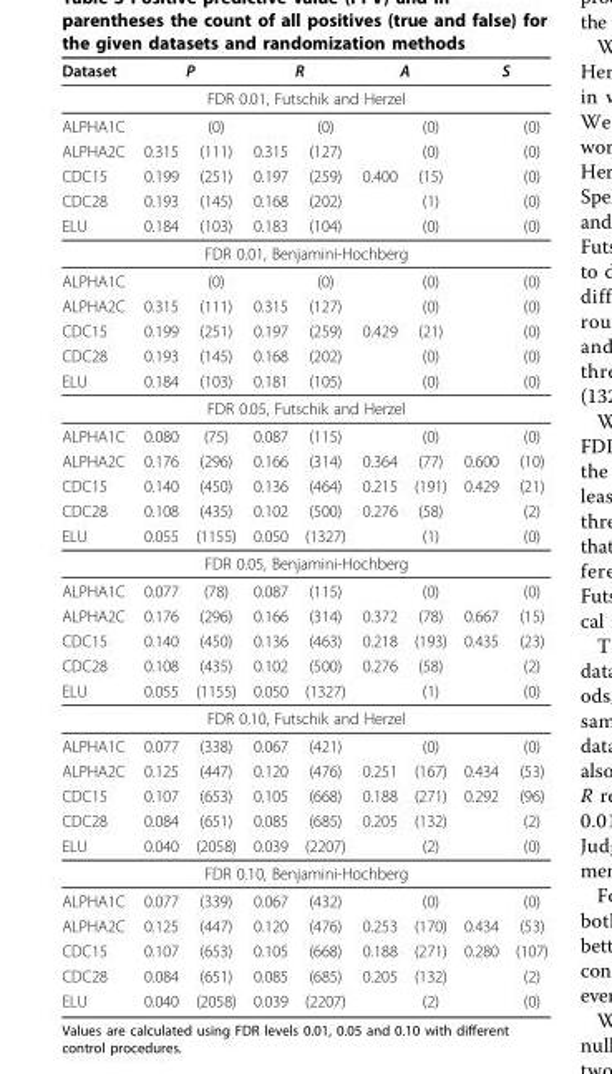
<table><thead><tr><td>Dataset</td><td colspan="2">P</td><td colspan="2">R</td><td colspan="2">A</td><td colspan="2">S</td></tr><tr><td colspan="9">FDR 0.01, Futschik and Herzel</td></tr><tr><td>ALPHA1C</td><td></td><td>(0)</td><td></td><td>(0)</td><td></td><td>(0)</td><td></td><td>(0)</td></tr></thead><tbody><tr><td>ALPHA2C</td><td>0.315</td><td>(111)</td><td>0.315</td><td>(127)</td><td></td><td>(0)</td><td></td><td>(0)</td></tr><tr><td>CDC15</td><td>0.199</td><td>(251)</td><td>0.197</td><td>(259)</td><td>0.400</td><td>(15)</td><td></td><td>(0)</td></tr><tr><td>CDC28</td><td>0.193</td><td>(145)</td><td>0.168</td><td>(202)</td><td></td><td>(1)</td><td></td><td>(0)</td></tr><tr><td>ELU</td><td>0.184</td><td>(103)</td><td>0.183</td><td>(104)</td><td></td><td>(0)</td><td></td><td>(0)</td></tr><tr><td colspan="9">FDR 0.01, Benjamini-Hochberg</td></tr><tr><td>ALPHA1C</td><td></td><td>(0)</td><td></td><td>(0)</td><td></td><td>(0)</td><td></td><td>(0)</td></tr><tr><td>ALPHA2C</td><td>0.315</td><td>(111)</td><td>0.315</td><td>(127)</td><td></td><td>(0)</td><td></td><td>(0)</td></tr><tr><td>CDC15</td><td>0.199</td><td>(251)</td><td>0.197</td><td>(259)</td><td>0.429</td><td>(21)</td><td></td><td>(0)</td></tr><tr><td>CDC28</td><td>0.193</td><td>(145)</td><td>0.168</td><td>(202)</td><td></td><td>(0)</td><td></td><td>(0)</td></tr><tr><td>ELU</td><td>0.184</td><td>(103)</td><td>0.181</td><td>(105)</td><td></td><td>(0)</td><td></td><td>(0)</td></tr><tr><td colspan="9">FDR 0.05, Futschik and Herzel</td></tr><tr><td>ALPHA1C</td><td>0.080</td><td>(75)</td><td>0.087</td><td>(115)</td><td></td><td>(0)</td><td></td><td>(0)</td></tr><tr><td>ALPHA2C</td><td>0.176</td><td>(296)</td><td>0.166</td><td>(314)</td><td>0.364</td><td>(77)</td><td>0.600</td><td>(10)</td></tr><tr><td>CDC15</td><td>0.140</td><td>(450)</td><td>0.136</td><td>(464)</td><td>0.215</td><td>(191)</td><td>0.429</td><td>(21)</td></tr><tr><td>CDC28</td><td>0.108</td><td>(435)</td><td>0.102</td><td>(500)</td><td>0.276</td><td>(58)</td><td></td><td>(2)</td></tr><tr><td>ELU</td><td>0.055</td><td>(1155)</td><td>0.050</td><td>(1327)</td><td></td><td>(1)</td><td></td><td>(0)</td></tr><tr><td colspan="9">FDR 0.05, Benjamini-Hochberg</td></tr><tr><td>ALPHA1C</td><td>0.077</td><td>(78)</td><td>0.087</td><td>(115)</td><td></td><td>(0)</td><td></td><td>(0)</td></tr><tr><td>ALPHA2C</td><td>0.176</td><td>(296)</td><td>0.166</td><td>(314)</td><td>0.372</td><td>(78)</td><td>0.667</td><td>(15)</td></tr><tr><td>CDC15</td><td>0.140</td><td>(450)</td><td>0.136</td><td>(463)</td><td>0.218</td><td>(193)</td><td>0.435</td><td>(23)</td></tr><tr><td>CDC28</td><td>0.108</td><td>(435)</td><td>0.102</td><td>(500)</td><td>0.276</td><td>(58)</td><td></td><td>(2)</td></tr><tr><td>ELU</td><td>0.055</td><td>(1155)</td><td>0.050</td><td>(1327)</td><td></td><td>(1)</td><td></td><td>(0)</td></tr><tr><td colspan="9">FDR 0.10, Futschik and Herzel</td></tr><tr><td>ALPHA1C</td><td>0.077</td><td>(338)</td><td>0.067</td><td>(421)</td><td></td><td>(0)</td><td></td><td>(0)</td></tr><tr><td>ALPHA2C</td><td>0.125</td><td>(447)</td><td>0.120</td><td>(476)</td><td>0.251</td><td>(167)</td><td>0.434</td><td>(53)</td></tr><tr><td>CDC15</td><td>0.107</td><td>(653)</td><td>0.105</td><td>(668)</td><td>0.188</td><td>(271)</td><td>0.292</td><td>(96)</td></tr><tr><td>CDC28</td><td>0.084</td><td>(651)</td><td>0.085</td><td>(685)</td><td>0.205</td><td>(132)</td><td></td><td>(2)</td></tr><tr><td>ELU</td><td>0.040</td><td>(2058)</td><td>0.039</td><td>(2207)</td><td></td><td>(2)</td><td></td><td>(0)</td></tr><tr><td colspan="9">FDR 0.10, Benjamini-Hochberg</td></tr><tr><td>ALPHA1C</td><td>0.077</td><td>(339)</td><td>0.067</td><td>(432)</td><td></td><td>(0)</td><td></td><td>(0)</td></tr><tr><td>ALPHA2C</td><td>0.125</td><td>(447)</td><td>0.120</td><td>(476)</td><td>0.253</td><td>(170)</td><td>0.434</td><td>(53)</td></tr><tr><td>CDC15</td><td>0.107</td><td>(653)</td><td>0.105</td><td>(668)</td><td>0.188</td><td>(271)</td><td>0.280</td><td>(107)</td></tr><tr><td>CDC28</td><td>0.084</td><td>(651)</td><td>0.085</td><td>(685)</td><td>0.205</td><td>(132)</td><td></td><td>(2)</td></tr><tr><td>ELU</td><td>0.040</td><td>(2058)</td><td>0.039</td><td>(2207)</td><td></td><td>(2)</td><td></td><td>(0)</td></tr></tbody></table>